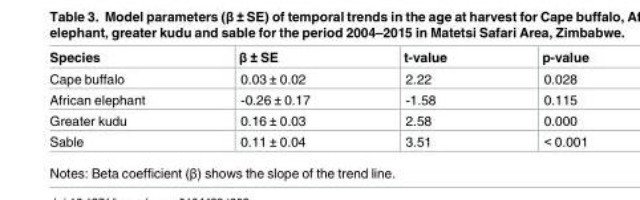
<table><thead><tr><td>Species</td><td>β ± SE</td><td>t-value</td><td>p-value</td></tr></thead><tbody><tr><td>Cape buffalo</td><td>0.03 ± 0.02</td><td>2.22</td><td>0.028</td></tr><tr><td>African elephant</td><td>-0.26 ± 0.17</td><td>-1.58</td><td>0.115</td></tr><tr><td>Greater kudu</td><td>0.16 ± 0.03</td><td>2.58</td><td>0.000</td></tr><tr><td>Sable</td><td>0.11 ± 0.04</td><td>3.51</td><td>&lt; 0.001</td></tr></tbody></table>